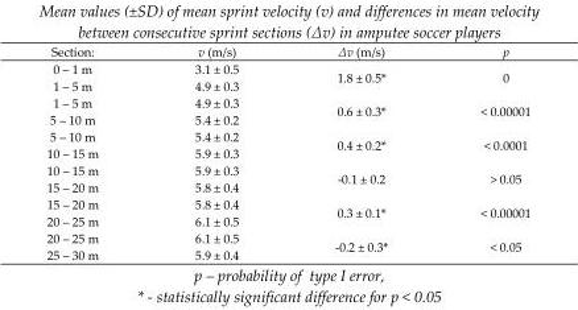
<table><thead><tr><td>Section:</td><td>v (m/s)</td><td>∆v (m/s)</td><td>p</td></tr></thead><tbody><tr><td>0 – 1 m</td><td>3.1 ± 0.5</td><td rowspan="2">1.8 ± 0.5*</td><td rowspan="2">0</td></tr><tr><td>1 – 5 m</td><td>4.9 ± 0.3</td></tr><tr><td>1 – 5 m</td><td>4.9 ± 0.3</td><td rowspan="2">0.6 ± 0.3*</td><td rowspan="2">&lt; 0.00001</td></tr><tr><td>5 – 10 m</td><td>5.4 ± 0.2</td></tr><tr><td>5 – 10 m</td><td>5.4 ± 0.2</td><td rowspan="2">0.4 ± 0.2*</td><td rowspan="2">&lt; 0.0001</td></tr><tr><td>10 – 15 m</td><td>5.9 ± 0.3</td></tr><tr><td>10 – 15 m</td><td>5.9 ± 0.3</td><td rowspan="2">-0.1 ± 0.2</td><td rowspan="2">&gt; 0.05</td></tr><tr><td>15 – 20 m</td><td>5.8 ± 0.4</td></tr><tr><td>15 – 20 m</td><td>5.8 ± 0.4</td><td rowspan="2">0.3 ± 0.1*</td><td rowspan="2">&lt; 0.00001</td></tr><tr><td>20 – 25 m</td><td>6.1 ± 0.5</td></tr><tr><td>20 – 25 m</td><td>6.1 ± 0.5</td><td rowspan="2">-0.2 ± 0.3*</td><td rowspan="2">&lt; 0.05</td></tr><tr><td>25 – 30 m</td><td>5.9 ± 0.4</td></tr></tbody></table>